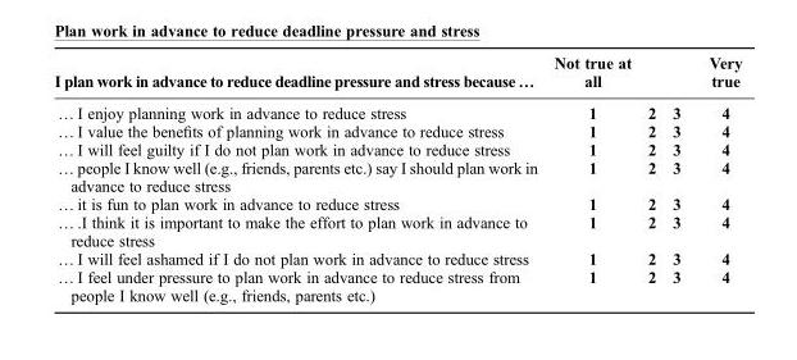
<table><thead><tr><td>I plan work in advance to reduce deadline pressure and stress because …</td><td>Not true at all</td><td></td><td></td><td>Very true</td></tr></thead><tbody><tr><td>… I enjoy planning work in advance to reduce stress</td><td>1</td><td>2</td><td>3</td><td>4</td></tr><tr><td>… I value the benefits of planning work in advance to reduce stress</td><td>1</td><td>2</td><td>3</td><td>4</td></tr><tr><td>… I will feel guilty if I do not plan work in advance to reduce stress</td><td>1</td><td>2</td><td>3</td><td>4</td></tr><tr><td>… people I know well (e.g., friends, parents etc.) say I should plan work in advance to reduce stress</td><td>1</td><td>2</td><td>3</td><td>4</td></tr><tr><td>… it is fun to plan work in advance to reduce stress</td><td>1</td><td>2</td><td>3</td><td>4</td></tr><tr><td>… .I think it is important to make the effort to plan work in advance to reduce stress</td><td>1</td><td>2</td><td>3</td><td>4</td></tr><tr><td>… I will feel ashamed if I do not plan work in advance to reduce stress</td><td>1</td><td>2</td><td>3</td><td>4</td></tr><tr><td>… I feel under pressure to plan work in advance to reduce stress from people I know well (e.g., friends, parents etc.)</td><td>1</td><td>2</td><td>3</td><td>4</td></tr></tbody></table>